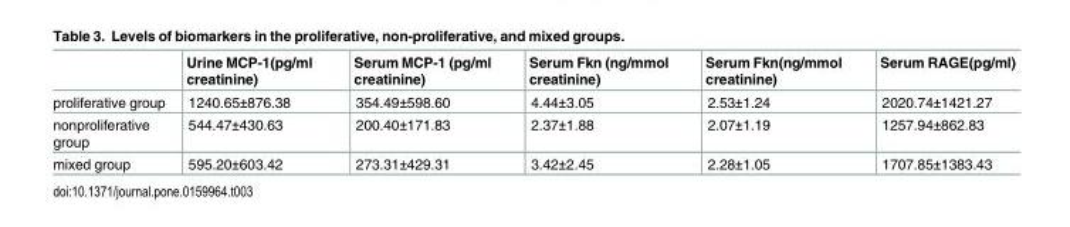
<table><thead><tr><td></td><td>Urine MCP-1(pg/ml creatinine)</td><td>Serum MCP-1 (pg/ml creatinine)</td><td>Serum Fkn (ng/mmol creatinine)</td><td>Serum Fkn(ng/mmol creatinine)</td><td>Serum RAGE(pg/ml)</td></tr></thead><tbody><tr><td>proliferative group</td><td>1240.65±876.38</td><td>354.49±598.60</td><td>4.44±3.05</td><td>2.53±1.24</td><td>2020.74±1421.27</td></tr><tr><td>nonproliferative group</td><td>544.47±430.63</td><td>200.40±171.83</td><td>2.37±1.88</td><td>2.07±1.19</td><td>1257.94±862.83</td></tr><tr><td>mixed group</td><td>595.20±603.42</td><td>273.31±429.31</td><td>3.42±2.45</td><td>2.28±1.05</td><td>1707.85±1383.43</td></tr></tbody></table>